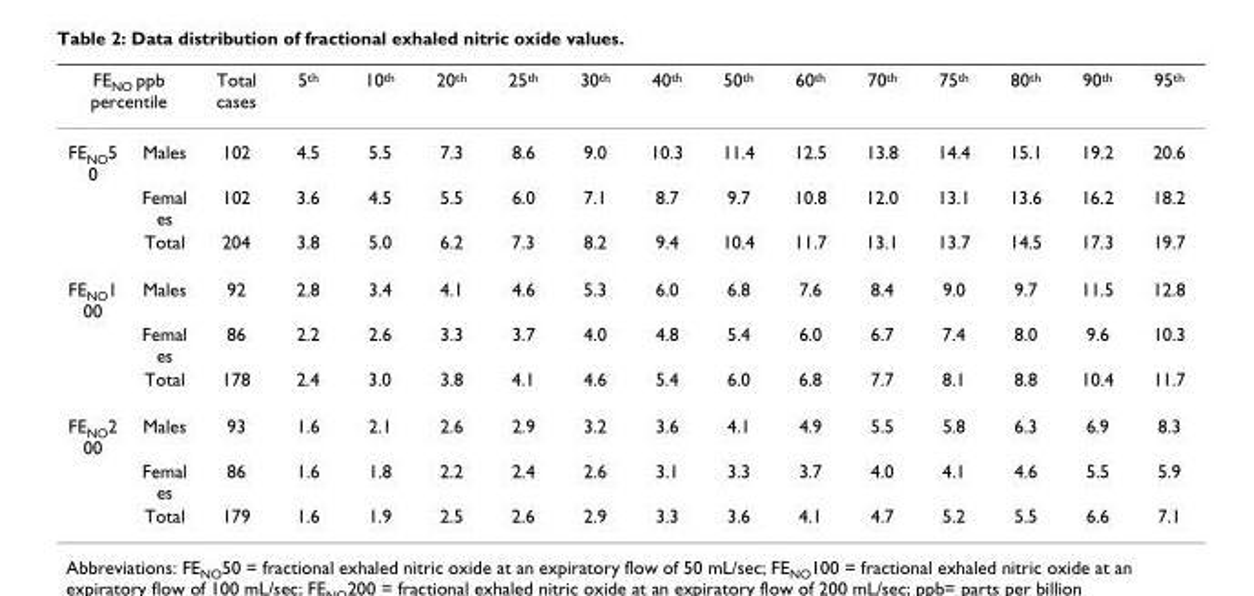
<table><thead><tr><td colspan="2">FE<sub>NO</sub> ppb percentile</td><td rowspan="2">Total cases 102</td><td rowspan="2">5<sup>th</sup> 4.5</td><td rowspan="2">10<sup>th</sup> 5.5</td><td rowspan="2">20<sup>th</sup> 7.3</td><td rowspan="2">25<sup>th</sup> 8.6</td><td rowspan="2">30<sup>th</sup> 9.0</td><td rowspan="2">40<sup>th</sup> 10.3</td><td rowspan="2">50<sup>th</sup> 11.4</td><td rowspan="2">60<sup>th</sup> 12.5</td><td rowspan="2">70<sup>th</sup> 13.8</td><td rowspan="2">75<sup>th</sup> 14.4</td><td rowspan="2">80<sup>th</sup> 15.1</td><td rowspan="2">90<sup>th</sup> 19.2</td><td rowspan="2">95<sup>th</sup> 20.6</td></tr><tr><td>FE<sub>NO</sub>5 0</td><td>Males</td></tr></thead><tbody><tr><td></td><td>Femal es</td><td>102</td><td>3.6</td><td>4.5</td><td>5.5</td><td>6.0</td><td>7.1</td><td>8.7</td><td>9.7</td><td>10.8</td><td>12.0</td><td>13.1</td><td>13.6</td><td>16.2</td><td>18.2</td></tr><tr><td></td><td>Total</td><td>204</td><td>3.8</td><td>5.0</td><td>6.2</td><td>7.3</td><td>8.2</td><td>9.4</td><td>10.4</td><td>11.7</td><td>13.1</td><td>13.7</td><td>14.5</td><td>17.3</td><td>19.7</td></tr><tr><td rowspan="3">FE<sub>NO</sub>1 00</td><td>Males</td><td>92</td><td>2.8</td><td>3.4</td><td>4.1</td><td>4.6</td><td>5.3</td><td>6.0</td><td>6.8</td><td>7.6</td><td>8.4</td><td>9.0</td><td>9.7</td><td>11.5</td><td>12.8</td></tr><tr><td>Femal es</td><td>86</td><td>2.2</td><td>2.6</td><td>3.3</td><td>3.7</td><td>4.0</td><td>4.8</td><td>5.4</td><td>6.0</td><td>6.7</td><td>7.4</td><td>8.0</td><td>9.6</td><td>10.3</td></tr><tr><td>Total</td><td>178</td><td>2.4</td><td>3.0</td><td>3.8</td><td>4.1</td><td>4.6</td><td>5.4</td><td>6.0</td><td>6.8</td><td>7.7</td><td>8.1</td><td>8.8</td><td>10.4</td><td>11.7</td></tr><tr><td rowspan="3">FE<sub>NO</sub>2 00</td><td>Males</td><td>93</td><td>1.6</td><td>2.1</td><td>2.6</td><td>2.9</td><td>3.2</td><td>3.6</td><td>4.1</td><td>4.9</td><td>5.5</td><td>5.8</td><td>6.3</td><td>6.9</td><td>8.3</td></tr><tr><td>Femal es</td><td>86</td><td>1.6</td><td>1.8</td><td>2.2</td><td>2.4</td><td>2.6</td><td>3.1</td><td>3.3</td><td>3.7</td><td>4.0</td><td>4.1</td><td>4.6</td><td>5.5</td><td>5.9</td></tr><tr><td>Total</td><td>179</td><td>1.6</td><td>1.9</td><td>2.5</td><td>2.6</td><td>2.9</td><td>3.3</td><td>3.6</td><td>4.1</td><td>4.7</td><td>5.2</td><td>5.5</td><td>6.6</td><td>7.1</td></tr></tbody></table>